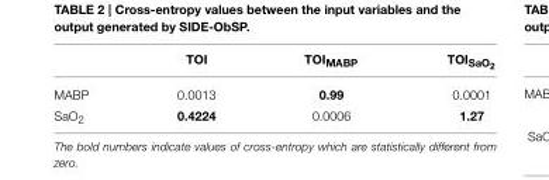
<table><thead><tr><td></td><td>TOI</td><td>TOI<sub>MABP</sub></td><td>TOISaO2</td></tr></thead><tbody><tr><td>MABP</td><td>0.0013</td><td>0.99</td><td>0.0001</td></tr><tr><td>SaO<sub>2</sub></td><td>0.4224</td><td>0.0006</td><td>1.27</td></tr></tbody></table>